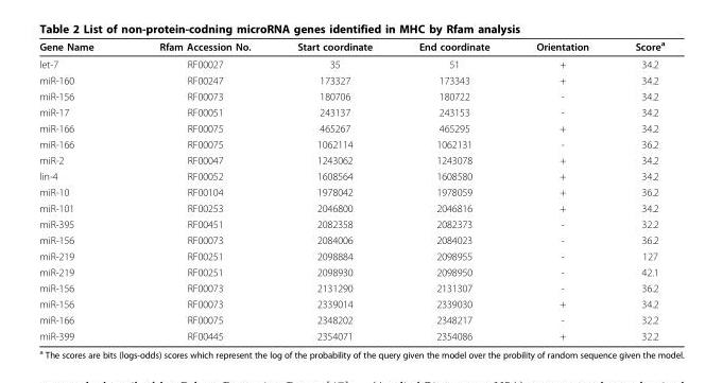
<table><thead><tr><td>Gene Name</td><td>Rfam Accession No.</td><td>Start coordinate</td><td>End coordinate</td><td>Orientation</td><td>Score<sup>a</sup></td></tr></thead><tbody><tr><td>let-7</td><td>RF00027</td><td>35</td><td>51</td><td>+</td><td>34.2</td></tr><tr><td>miR-160</td><td>RF00247</td><td>173327</td><td>173343</td><td>+</td><td>34.2</td></tr><tr><td>miR-156</td><td>RF00073</td><td>180706</td><td>180722</td><td>-</td><td>34.2</td></tr><tr><td>miR-17</td><td>RF00051</td><td>243137</td><td>243153</td><td>-</td><td>34.2</td></tr><tr><td>miR-166</td><td>RF00075</td><td>465267</td><td>465295</td><td>+</td><td>34.2</td></tr><tr><td>miR-166</td><td>RF00075</td><td>1062114</td><td>1062131</td><td>-</td><td>36.2</td></tr><tr><td>miR-2</td><td>RF00047</td><td>1243062</td><td>1243078</td><td>+</td><td>34.2</td></tr><tr><td>lin-4</td><td>RF00052</td><td>1608564</td><td>1608580</td><td>+</td><td>34.2</td></tr><tr><td>miR-10</td><td>RF00104</td><td>1978042</td><td>1978059</td><td>+</td><td>36.2</td></tr><tr><td>miR-101</td><td>RF00253</td><td>2046800</td><td>2046816</td><td>+</td><td>34.2</td></tr><tr><td>miR-395</td><td>RF00451</td><td>2082358</td><td>2082373</td><td>-</td><td>32.2</td></tr><tr><td>miR-156</td><td>RF00073</td><td>2084006</td><td>2084023</td><td>-</td><td>36.2</td></tr><tr><td>miR-219</td><td>RF00251</td><td>2098884</td><td>2098955</td><td>-</td><td>127</td></tr><tr><td>miR-219</td><td>RF00251</td><td>2098930</td><td>2098950</td><td>-</td><td>42.1</td></tr><tr><td>miR-156</td><td>RF00073</td><td>2131290</td><td>2131307</td><td>-</td><td>36.2</td></tr><tr><td>miR-156</td><td>RF00073</td><td>2339014</td><td>2339030</td><td>+</td><td>34.2</td></tr><tr><td>miR-166</td><td>RF00075</td><td>2348202</td><td>2348217</td><td>-</td><td>32.2</td></tr><tr><td>miR-399</td><td>RF00445</td><td>2354071</td><td>2354086</td><td>+</td><td>32.2</td></tr></tbody></table>